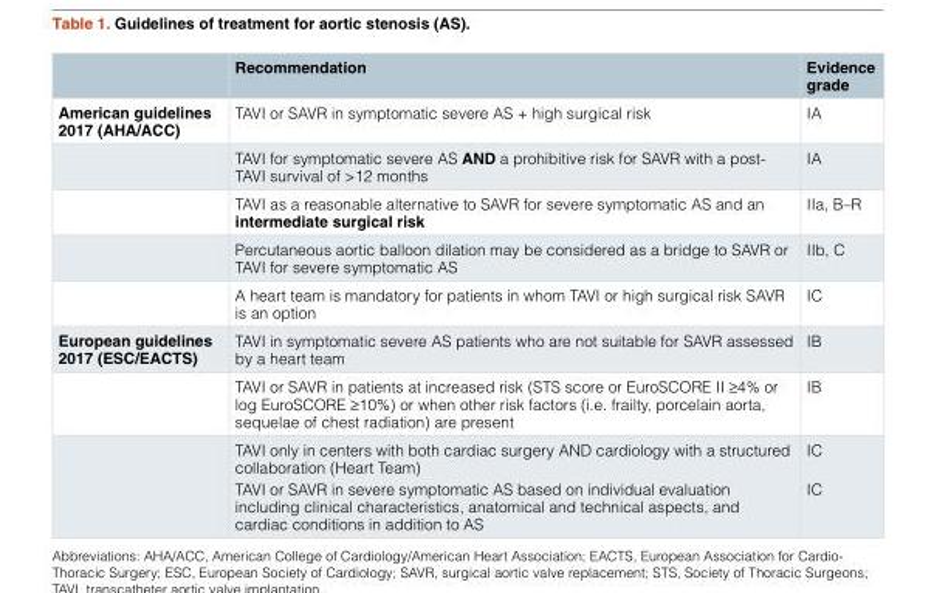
<table><thead><tr><td></td><td>Recommendation</td><td>Evidence grade</td></tr></thead><tbody><tr><td rowspan="5">American guidelines 2017 (AHA/ACC)</td><td>TAVI or SAVR in symptomatic severe AS + high surgical risk</td><td>IA</td></tr><tr><td>TAVI for symptomatic severe AS AND a prohibitive risk for SAVR with a post- TAVI survival of &gt;12 months</td><td>IA</td></tr><tr><td>TAVI as a reasonable alternative to SAVR for severe symptomatic AS and an intermediate surgical risk</td><td>IIa, B–R</td></tr><tr><td>Percutaneous aortic balloon dilation may be considered as a bridge to SAVR or TAVI for severe symptomatic AS</td><td>IIb, C</td></tr><tr><td>A heart team is mandatory for patients in whom TAVI or high surgical risk SAVR is an option</td><td>IC</td></tr><tr><td rowspan="3">European guidelines 2017 (ESC/EACTS)</td><td>TAVI in symptomatic severe AS patients who are not suitable for SAVR assessed by a heart team</td><td>IB</td></tr><tr><td>TAVI or SAVR in patients at increased risk (STS score or EuroSCORE II ≥4% or log EuroSCORE ≥10%) or when other risk factors (i.e. frailty, porcelain aorta, sequelae of chest radiation) are present</td><td>IB</td></tr><tr><td>TAVI only in centers with both cardiac surgery AND cardiology with a structured collaboration (Heart Team) TAVI or SAVR in severe symptomatic AS based on individual evaluation including clinical characteristics, anatomical and technical aspects, and cardiac conditions in addition to AS</td><td>IC IC</td></tr></tbody></table>